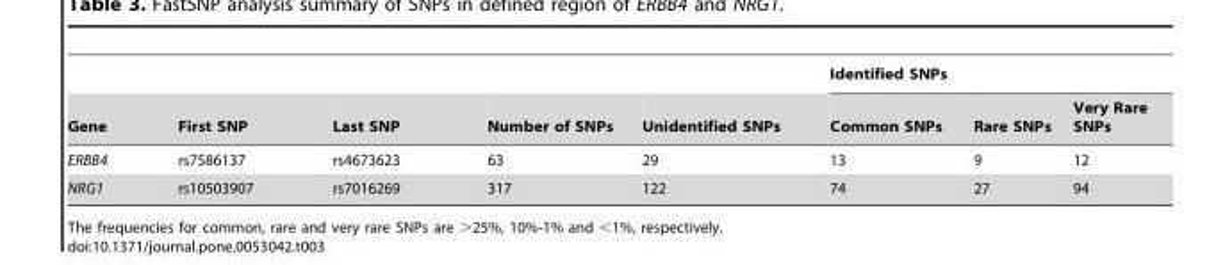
<table><thead><tr><td rowspan="2">Gene</td><td rowspan="2">First SNP</td><td rowspan="2">Last SNP</td><td rowspan="2">Number of SNPs</td><td rowspan="2">Unidentified SNPs</td><td colspan="3">Identified SNPs</td></tr><tr><td>Common SNPs</td><td>Rare SNPs</td><td>Very Rare SNPs</td></tr></thead><tbody><tr><td>ERBB4</td><td>rs7586137</td><td>rs4673623</td><td>63</td><td>29</td><td>13</td><td>9</td><td>12</td></tr><tr><td>NRG1</td><td>rs10503907</td><td>rs7016269</td><td>317</td><td>122</td><td>74</td><td>27</td><td>94</td></tr></tbody></table>